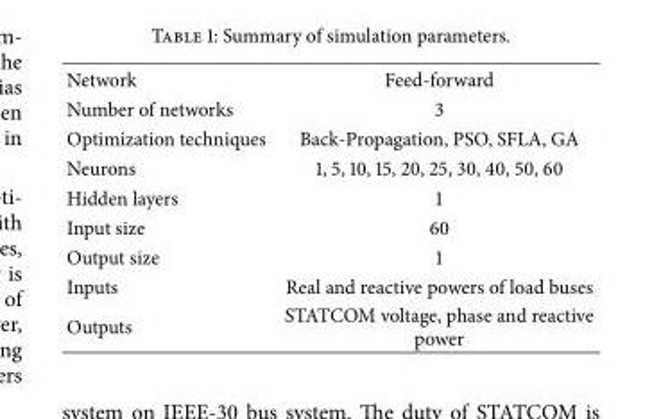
<table><tbody><tr><td>Network</td><td>Feed-forward</td></tr><tr><td>Number of networks</td><td>3</td></tr><tr><td>Optimization techniques</td><td>Back-Propagation, PSO, SFLA, GA</td></tr><tr><td>Neurons</td><td>1, 5, 10, 15, 20, 25, 30, 40, 50, 60</td></tr><tr><td>Hidden layers</td><td>1</td></tr><tr><td>Input size</td><td>60</td></tr><tr><td>Output size</td><td>1</td></tr><tr><td>Inputs</td><td>Real and reactive powers of load buses</td></tr><tr><td>Outputs</td><td>STATCOM voltage, phase and reactive power</td></tr></tbody></table>